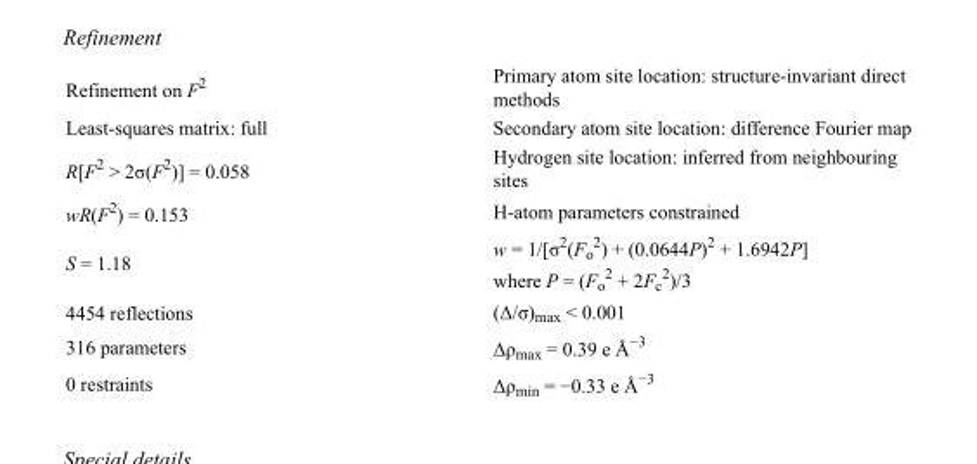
<table><tbody><tr><td>Refinement on F<sup>2</sup></td><td>Primary atom site location: structure-invariant direct methods</td></tr><tr><td>Least-squares matrix: full</td><td>Secondary atom site location: difference Fourier map</td></tr><tr><td>R[F<sup>2</sup> &gt; 2σ(F<sup>2</sup>)] = 0.058</td><td>Hydrogen site location: inferred from neighbouring sites</td></tr><tr><td>wR(F<sup>2</sup>) = 0.153</td><td>H-atom parameters constrained</td></tr><tr><td>S = 1.18</td><td>w = 1/[σ<sup>2</sup>(F<sub>o</sub> <sup>2</sup>) + (0.0644P)<sup>2</sup> + 1.6942P] where P = (F<sub>o</sub> <sup>2</sup> + 2F<sub>c</sub> <sup>2</sup>)/3</td></tr><tr><td>4454 reflections</td><td>(Δ/σ)<sub>max</sub> &lt; 0.001</td></tr><tr><td>316 parameters</td><td>Δρ<sub>max</sub> = 0.39 e Å<sup>−3</sup></td></tr><tr><td>0 restraints</td><td>Δρ<sub>min</sub> = −0.33 e Å<sup>−3</sup></td></tr></tbody></table>